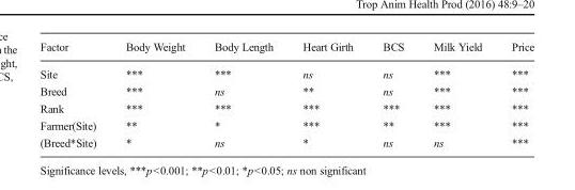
<table><thead><tr><td>Factor</td><td>Body Weight</td><td>Body Length</td><td>Heart Girth</td><td>BCS</td><td>Milk Yield</td><td>Price</td></tr></thead><tbody><tr><td>Site</td><td>***</td><td>***</td><td>ns</td><td>ns</td><td>***</td><td>***</td></tr><tr><td>Breed</td><td>***</td><td>ns</td><td>**</td><td>ns</td><td>***</td><td>***</td></tr><tr><td>Rank</td><td>***</td><td>***</td><td>***</td><td>***</td><td>***</td><td>***</td></tr><tr><td>Farmer(Site)</td><td>**</td><td>*</td><td>***</td><td>**</td><td>***</td><td>***</td></tr><tr><td>(Breed*Site)</td><td>*</td><td>ns</td><td>*</td><td>ns</td><td>ns</td><td>***</td></tr></tbody></table>